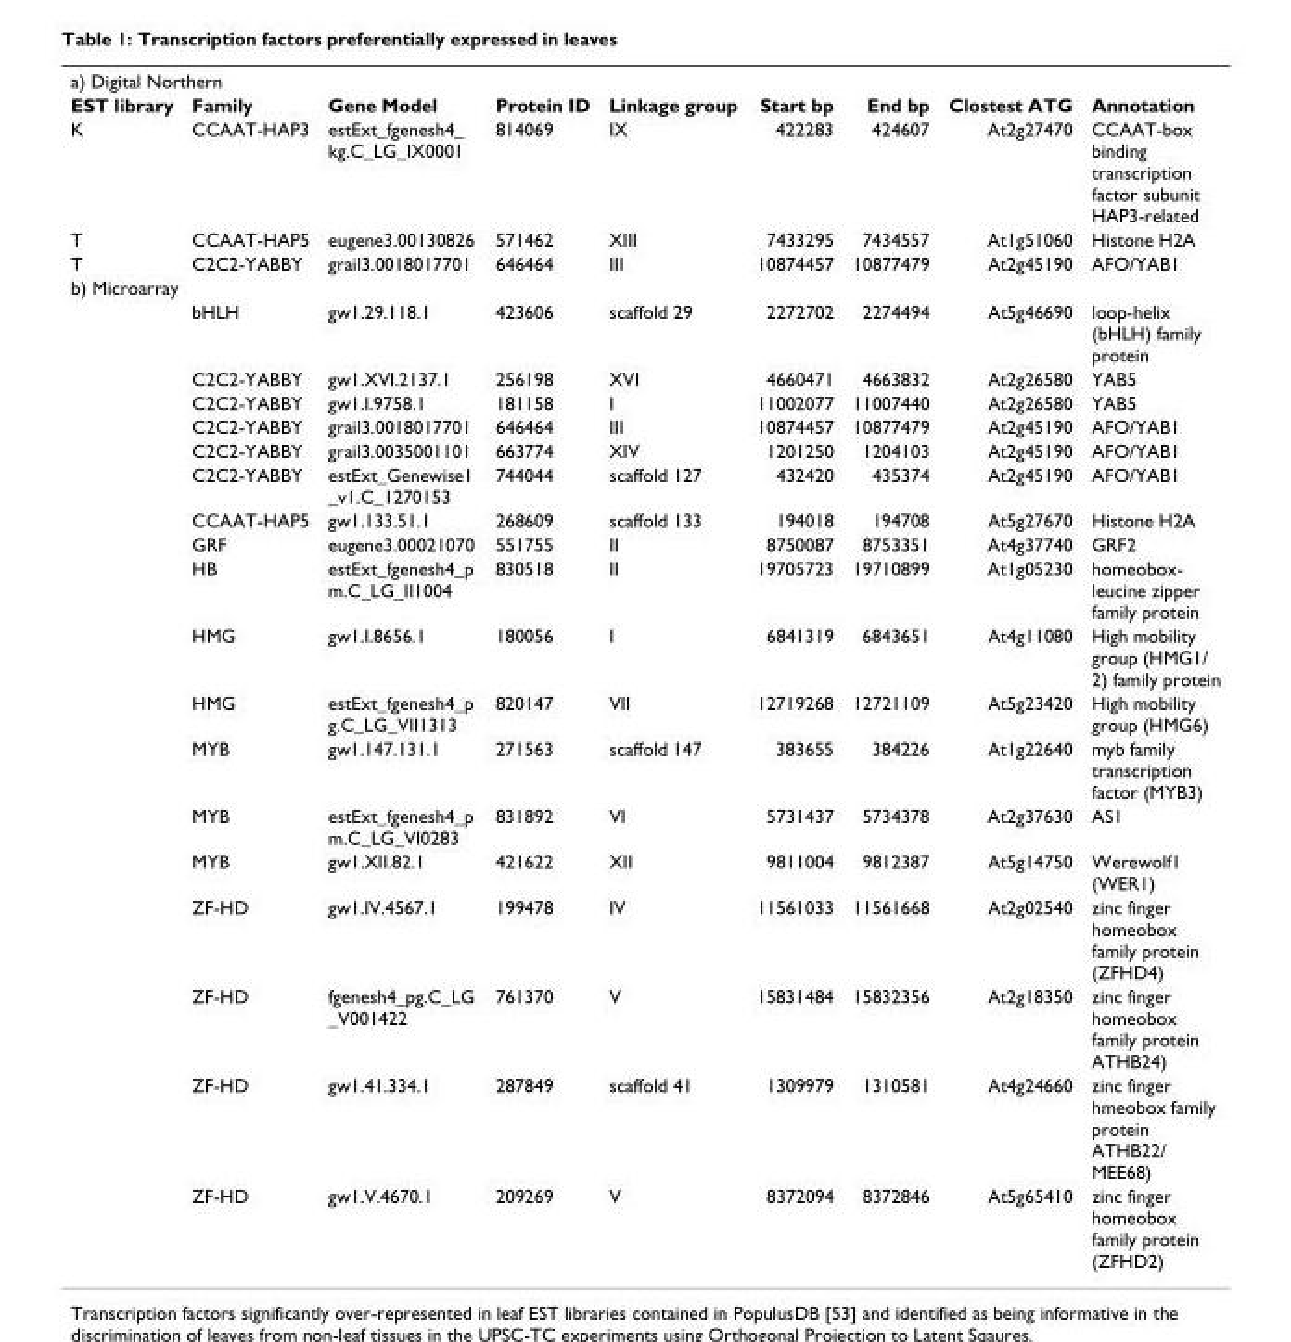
<table><tbody><tr><td colspan="9">a) Digital Northern</td></tr><tr><td>EST library</td><td>Family</td><td>Gene Model</td><td>Protein ID</td><td>Linkage group</td><td>Start bp</td><td>End bp</td><td>Clostest ATG</td><td>Annotation</td></tr><tr><td>K</td><td>CCAAT-HAP3</td><td>estExt_fgenesh4_ kg.C_LG_IX0001</td><td>814069</td><td>IX</td><td>422283</td><td>424607</td><td>At2g27470</td><td>CCAAT-box binding transcription factor subunit HAP3-related</td></tr><tr><td>T</td><td>CCAAT-HAP5</td><td>eugene3.00130826</td><td>571462</td><td>XIII</td><td>7433295</td><td>7434557</td><td>At1g51060</td><td>Histone H2A</td></tr><tr><td>T</td><td>C2C2-YABBY</td><td>grail3.0018017701</td><td>646464</td><td>III</td><td>10874457</td><td>10877479</td><td>At2g45190</td><td>AFO/YAB1</td></tr><tr><td colspan="9">b) Microarray</td></tr><tr><td></td><td>bHLH</td><td>gw1.29.118.1</td><td>423606</td><td>scaffold 29</td><td>2272702</td><td>2274494</td><td>At5g46690</td><td>loop-helix (bHLH) family protein</td></tr><tr><td></td><td>C2C2-YABBY</td><td>gw1.XVI.2137.1</td><td>256198</td><td>XVI</td><td>4660471</td><td>4663832</td><td>At2g26580</td><td>YAB5</td></tr><tr><td></td><td>C2C2-YABBY</td><td>gw1.I.9758.1</td><td>181158</td><td>I</td><td>11002077</td><td>11007440</td><td>At2g26580</td><td>YAB5</td></tr><tr><td></td><td>C2C2-YABBY</td><td>grail3.0018017701</td><td>646464</td><td>III</td><td>10874457</td><td>10877479</td><td>At2g45190</td><td>AFO/YAB1</td></tr><tr><td></td><td>C2C2-YABBY</td><td>grail3.0035001101</td><td>663774</td><td>XIV</td><td>1201250</td><td>1204103</td><td>At2g45190</td><td>AFO/YAB1</td></tr><tr><td></td><td>C2C2-YABBY</td><td>estExt_Genewise1 _v1.C_1270153</td><td>744044</td><td>scaffold 127</td><td>432420</td><td>435374</td><td>At2g45190</td><td>AFO/YAB1</td></tr><tr><td></td><td>CCAAT-HAP5</td><td>gw1.133.51.1</td><td>268609</td><td>scaffold 133</td><td>194018</td><td>194708</td><td>At5g27670</td><td>Histone H2A</td></tr><tr><td></td><td>GRF</td><td>eugene3.00021070</td><td>551755</td><td>II</td><td>8750087</td><td>8753351</td><td>At4g37740</td><td>GRF2</td></tr><tr><td></td><td>HB</td><td>estExt_fgenesh4_p m.C_LG_II1004</td><td>830518</td><td>II</td><td>19705723</td><td>19710899</td><td>At1g05230</td><td>homeobox- leucine zipper family protein</td></tr><tr><td></td><td>HMG</td><td>gw1.I.8656.1</td><td>180056</td><td>I</td><td>6841319</td><td>6843651</td><td>At4g11080</td><td>High mobility group (HMG1/ 2) family protein</td></tr><tr><td></td><td>HMG</td><td>estExt_fgenesh4_p g.C_LG_VII1313</td><td>820147</td><td>VII</td><td>12719268</td><td>12721109</td><td>At5g23420</td><td>High mobility group (HMG6)</td></tr><tr><td></td><td>MYB</td><td>gw1.147.131.1</td><td>271563</td><td>scaffold 147</td><td>383655</td><td>384226</td><td>At1g22640</td><td>myb family transcription factor (MYB3)</td></tr><tr><td></td><td>MYB</td><td>estExt_fgenesh4_p m.C_LG_VI0283</td><td>831892</td><td>VI</td><td>5731437</td><td>5734378</td><td>At2g37630</td><td>AS1</td></tr><tr><td></td><td>MYB</td><td>gw1.XII.82.1</td><td>421622</td><td>XII</td><td>9811004</td><td>9812387</td><td>At5g14750</td><td>Werewolf1 (WER1)</td></tr><tr><td></td><td>ZF-HD</td><td>gw1.IV.4567.1</td><td>199478</td><td>IV</td><td>11561033</td><td>11561668</td><td>At2g02540</td><td>zinc finger homeobox family protein (ZFHD4)</td></tr><tr><td></td><td>ZF-HD</td><td>fgenesh4_pg.C_LG _V001422</td><td>761370</td><td>V</td><td>15831484</td><td>15832356</td><td>At2g18350</td><td>zinc finger homeobox family protein ATHB24)</td></tr><tr><td></td><td>ZF-HD</td><td>gw1.41.334.1</td><td>287849</td><td>scaffold 41</td><td>1309979</td><td>1310581</td><td>At4g24660</td><td>zinc finger hmeobox family protein ATHB22/ MEE68)</td></tr><tr><td></td><td>ZF-HD</td><td>gw1.V.4670.1</td><td>209269</td><td>V</td><td>8372094</td><td>8372846</td><td>At5g65410</td><td>zinc finger homeobox family protein (ZFHD2)</td></tr></tbody></table>